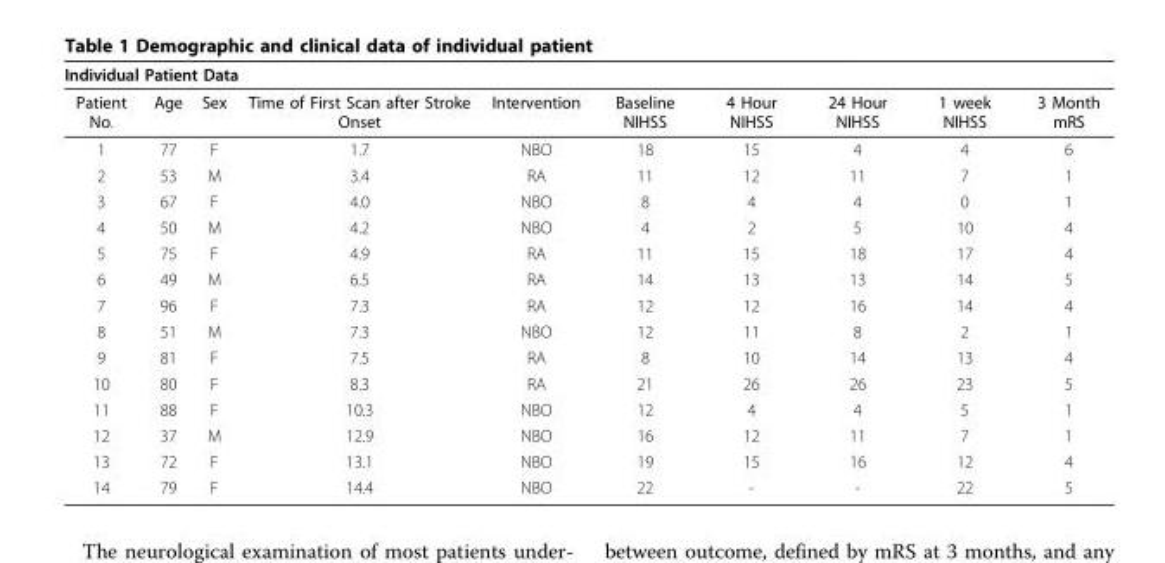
<table><thead><tr><td colspan="10">Individual Patient Data</td></tr><tr><td>Patient No.</td><td>Age</td><td>Sex</td><td>Time of First Scan after Stroke Onset</td><td>Intervention</td><td>Baseline NIHSS</td><td>4 Hour NIHSS</td><td>24 Hour NIHSS</td><td>1 week NIHSS</td><td>3 Month mRS</td></tr></thead><tbody><tr><td>1</td><td>77</td><td>F</td><td>1.7</td><td>NBO</td><td>18</td><td>15</td><td>4</td><td>4</td><td>6</td></tr><tr><td>2</td><td>53</td><td>M</td><td>3.4</td><td>RA</td><td>11</td><td>12</td><td>11</td><td>7</td><td>1</td></tr><tr><td>3</td><td>67</td><td>F</td><td>4.0</td><td>NBO</td><td>8</td><td>4</td><td>4</td><td>0</td><td>1</td></tr><tr><td>4</td><td>50</td><td>M</td><td>4.2</td><td>NBO</td><td>4</td><td>2</td><td>5</td><td>10</td><td>4</td></tr><tr><td>5</td><td>75</td><td>F</td><td>4.9</td><td>RA</td><td>11</td><td>15</td><td>18</td><td>17</td><td>4</td></tr><tr><td>6</td><td>49</td><td>M</td><td>6.5</td><td>RA</td><td>14</td><td>13</td><td>13</td><td>14</td><td>5</td></tr><tr><td>7</td><td>96</td><td>F</td><td>7.3</td><td>RA</td><td>12</td><td>12</td><td>16</td><td>14</td><td>4</td></tr><tr><td>8</td><td>51</td><td>M</td><td>7.3</td><td>NBO</td><td>12</td><td>11</td><td>8</td><td>2</td><td>1</td></tr><tr><td>9</td><td>81</td><td>F</td><td>7.5</td><td>RA</td><td>8</td><td>10</td><td>14</td><td>13</td><td>4</td></tr><tr><td>10</td><td>80</td><td>F</td><td>8.3</td><td>RA</td><td>21</td><td>26</td><td>26</td><td>23</td><td>5</td></tr><tr><td>11</td><td>88</td><td>F</td><td>10.3</td><td>NBO</td><td>12</td><td>4</td><td>4</td><td>5</td><td>1</td></tr><tr><td>12</td><td>37</td><td>M</td><td>12.9</td><td>NBO</td><td>16</td><td>12</td><td>11</td><td>7</td><td>1</td></tr><tr><td>13</td><td>72</td><td>F</td><td>13.1</td><td>NBO</td><td>19</td><td>15</td><td>16</td><td>12</td><td>4</td></tr><tr><td>14</td><td>79</td><td>F</td><td>14.4</td><td>NBO</td><td>22</td><td>-</td><td>-</td><td>22</td><td>5</td></tr></tbody></table>